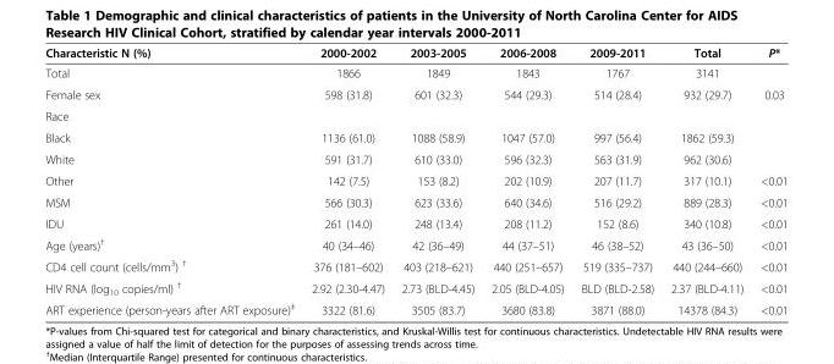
<table><thead><tr><td>Characteristic N (%)</td><td>2000-2002</td><td>2003-2005</td><td>2006-2008</td><td>2009-2011</td><td>Total</td><td>P*</td></tr></thead><tbody><tr><td>Total</td><td>1866</td><td>1849</td><td>1843</td><td>1767</td><td>3141</td><td></td></tr><tr><td>Female sex</td><td>598 (31.8)</td><td>601 (32.3)</td><td>544 (29.3)</td><td>514 (28.4)</td><td>932 (29.7)</td><td>0.03</td></tr><tr><td colspan="7">Race</td></tr><tr><td>Black</td><td>1136 (61.0)</td><td>1088 (58.9)</td><td>1047 (57.0)</td><td>997 (56.4)</td><td>1862 (59.3)</td><td></td></tr><tr><td>White</td><td>591 (31.7)</td><td>610 (33.0)</td><td>596 (32.3)</td><td>563 (31.9)</td><td>962 (30.6)</td><td></td></tr><tr><td>Other</td><td>142 (7.5)</td><td>153 (8.2)</td><td>202 (10.9)</td><td>207 (11.7)</td><td>317 (10.1)</td><td>&lt;0.01</td></tr><tr><td>MSM</td><td>566 (30.3)</td><td>623 (33.6)</td><td>640 (34.6)</td><td>516 (29.2)</td><td>889 (28.3)</td><td>&lt;0.01</td></tr><tr><td>IDU</td><td>261 (14.0)</td><td>248 (13.4)</td><td>208 (11.2)</td><td>152 (8.6)</td><td>340 (10.8)</td><td>&lt;0.01</td></tr><tr><td>Age (years)<sup>†</sup></td><td>40 (34–46)</td><td>42 (36–49)</td><td>44 (37–51)</td><td>46 (38–52)</td><td>43 (36–50)</td><td>&lt;0.01</td></tr><tr><td>CD4 cell count (cells/mm<sup>3</sup>) <sup>†</sup></td><td>376 (181–602)</td><td>403 (218–621)</td><td>440 (251–657)</td><td>519 (335–737)</td><td>440 (244–660)</td><td>&lt;0.01</td></tr><tr><td>HIV RNA (log<sub>10</sub> copies/ml) <sup>†</sup></td><td>2.92 (2.30-4.47)</td><td>2.73 (BLD-4.45)</td><td>2.05 (BLD-4.05)</td><td>BLD (BLD-2.58)</td><td>2.37 (BLD-4.11)</td><td>&lt;0.01</td></tr><tr><td>ART experience (person-years after ART exposure)<sup>‡</sup></td><td>3322 (81.6)</td><td>3505 (83.7)</td><td>3680 (83.8)</td><td>3871 (88.0)</td><td>14378 (84.3)</td><td>&lt;0.01</td></tr></tbody></table>